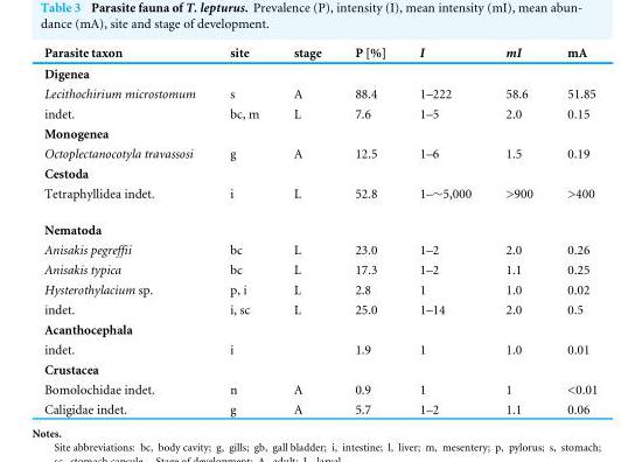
<table><thead><tr><td>Parasite taxon</td><td>site</td><td>stage</td><td>P [%]</td><td>I</td><td>mI</td><td>mA</td></tr></thead><tbody><tr><td colspan="7">Digenea</td></tr><tr><td>Lecithochirium microstomum</td><td>s</td><td>A</td><td>88.4</td><td>1–222</td><td>58.6</td><td>51.85</td></tr><tr><td>indet.</td><td>bc, m</td><td>L</td><td>7.6</td><td>1–5</td><td>2.0</td><td>0.15</td></tr><tr><td colspan="7">Monogenea</td></tr><tr><td>Octoplectanocotyla travassosi</td><td>g</td><td>A</td><td>12.5</td><td>1–6</td><td>1.5</td><td>0.19</td></tr><tr><td colspan="7">Cestoda</td></tr><tr><td>Tetraphyllidea indet.</td><td>i</td><td>L</td><td>52.8</td><td>1–∼5,000</td><td>&gt;900</td><td>&gt;400</td></tr><tr><td colspan="7">Nematoda</td></tr><tr><td>Anisakis pegreffii</td><td>bc</td><td>L</td><td>23.0</td><td>1–2</td><td>2.0</td><td>0.26</td></tr><tr><td>Anisakis typica</td><td>bc</td><td>L</td><td>17.3</td><td>1–2</td><td>1.1</td><td>0.25</td></tr><tr><td>Hysterothylacium sp.</td><td>p, i</td><td>L</td><td>2.8</td><td>1</td><td>1.0</td><td>0.02</td></tr><tr><td>indet.</td><td>i, sc</td><td>L</td><td>25.0</td><td>1–14</td><td>2.0</td><td>0.5</td></tr><tr><td colspan="7">Acanthocephala</td></tr><tr><td>indet.</td><td>i</td><td></td><td>1.9</td><td>1</td><td>1.0</td><td>0.01</td></tr><tr><td colspan="7">Crustacea</td></tr><tr><td>Bomolochidae indet.</td><td>n</td><td>A</td><td>0.9</td><td>1</td><td>1</td><td>&lt;0.01</td></tr><tr><td>Caligidae indet.</td><td>g</td><td>A</td><td>5.7</td><td>1–2</td><td>1.1</td><td>0.06</td></tr></tbody></table>